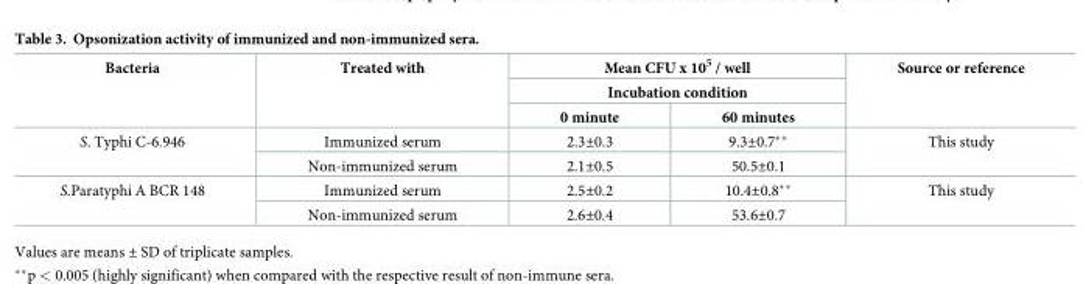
<table><thead><tr><td rowspan="3">Bacteria</td><td rowspan="3">Treated with</td><td rowspan="2" colspan="2">Mean CFU x 10<sup>5</sup> / well Incubation condition</td><td rowspan="3">Source or reference</td></tr><tr></tr><tr><td>0 minute</td><td>60 minutes</td></tr></thead><tbody><tr><td rowspan="2">S. Typhi C-6.946</td><td>Immunized serum</td><td>2.3±0.3</td><td>9.3±0.7**</td><td rowspan="2">This study</td></tr><tr><td>Non-immunized serum</td><td>2.1±0.5</td><td>50.5±0.1</td></tr><tr><td rowspan="2">S.Paratyphi A BCR 148</td><td>Immunized serum</td><td>2.5±0.2</td><td>10.4±0.8**</td><td rowspan="2">This study</td></tr><tr><td>Non-immunized serum</td><td>2.6±0.4</td><td>53.6±0.7</td></tr></tbody></table>